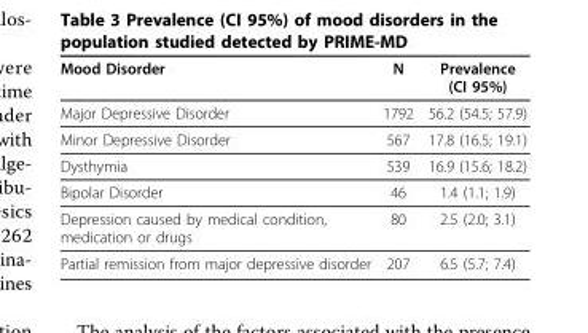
<table><thead><tr><td>Mood Disorder</td><td>N</td><td>Prevalence (CI 95%)</td></tr></thead><tbody><tr><td>Major Depressive Disorder</td><td>1792</td><td>56.2 (54.5; 57.9)</td></tr><tr><td>Minor Depressive Disorder</td><td>567</td><td>17.8 (16.5; 19.1)</td></tr><tr><td>Dysthymia</td><td>539</td><td>16.9 (15.6; 18.2)</td></tr><tr><td>Bipolar Disorder</td><td>46</td><td>1.4 (1.1; 1.9)</td></tr><tr><td>Depression caused by medical condition, medication or drugs</td><td>80</td><td>2.5 (2.0; 3.1)</td></tr><tr><td>Partial remission from major depressive disorder</td><td>207</td><td>6.5 (5.7; 7.4)</td></tr></tbody></table>